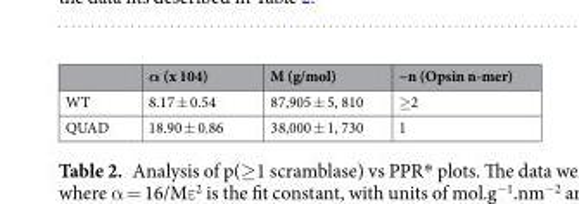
<table><thead><tr><td></td><td>α (x 104)</td><td>M (g/mol)</td><td>~n (Opsin n-mer)</td></tr></thead><tbody><tr><td>WT</td><td>8.17 ± 0.54</td><td>87,905 ± 5, 810</td><td>≥2</td></tr><tr><td>QUAD</td><td>18.90 ± 0.86</td><td>38,000 ± 1, 730</td><td>1</td></tr></tbody></table>